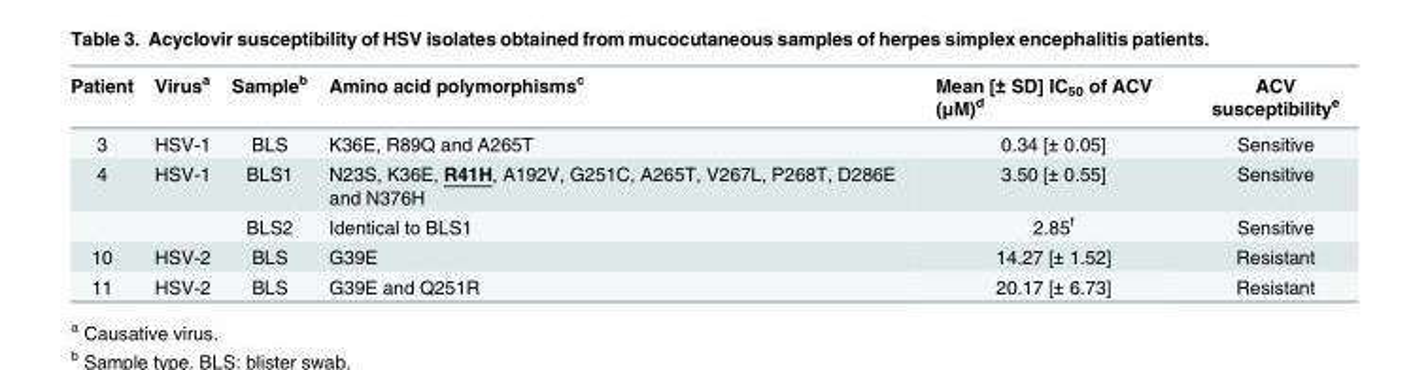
<table><thead><tr><td>Patient</td><td>Virus<sup>a</sup></td><td>Sample<sup>b</sup></td><td>Amino acid polymorphisms<sup>c</sup></td><td>Mean [± SD] IC<sub>50</sub> of ACV (μM)<sup>d</sup></td><td>ACV susceptibility<sup>e</sup></td></tr></thead><tbody><tr><td>3</td><td>HSV-1</td><td>BLS</td><td>K36E, R89Q and A265T</td><td>0.34 [± 0.05]</td><td>Sensitive</td></tr><tr><td rowspan="2">4</td><td>HSV-1</td><td>BLS1</td><td>N23S, K36E, R41H, A192V, G251C, A265T, V267L, P268T, D286E and N376H</td><td>3.50 [± 0.55]</td><td>Sensitive</td></tr><tr><td></td><td>BLS2</td><td>Identical to BLS1</td><td>2.85<sup>f</sup></td><td>Sensitive</td></tr><tr><td>10</td><td>HSV-2</td><td>BLS</td><td>G39E</td><td>14.27 [± 1.52]</td><td>Resistant</td></tr><tr><td>11</td><td>HSV-2</td><td>BLS</td><td>G39E and Q251R</td><td>20.17 [± 6.73]</td><td>Resistant</td></tr></tbody></table>